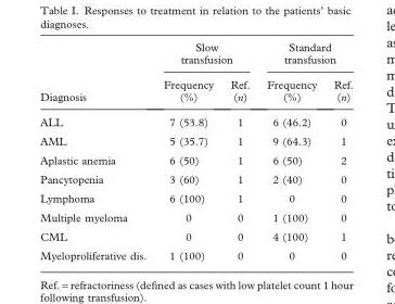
<table><thead><tr><td rowspan="2">Diagnosis</td><td colspan="2">Slow transfusion</td><td colspan="2">Standard transfusion</td></tr><tr><td>Frequency (%)</td><td>Ref. (n)</td><td>Frequency (%)</td><td>Ref. (n)</td></tr></thead><tbody><tr><td>ALL</td><td>7 (53.8)</td><td>1</td><td>6 (46.2)</td><td>0</td></tr><tr><td>AML</td><td>5 (35.7)</td><td>1</td><td>9 (64.3)</td><td>1</td></tr><tr><td>Aplastic anemia</td><td>6 (50)</td><td>1</td><td>6 (50)</td><td>2</td></tr><tr><td>Pancytopenia</td><td>3 (60)</td><td>1</td><td>2 (40)</td><td>0</td></tr><tr><td>Lymphoma</td><td>6 (100)</td><td>1</td><td>0</td><td>0</td></tr><tr><td>Multiple myeloma</td><td>0</td><td>0</td><td>1 (100)</td><td>0</td></tr><tr><td>CML</td><td>0</td><td>0</td><td>4 (100)</td><td>1</td></tr><tr><td>Myeloproliferative dis.</td><td>1 (100)</td><td>0</td><td>0</td><td>0</td></tr></tbody></table>